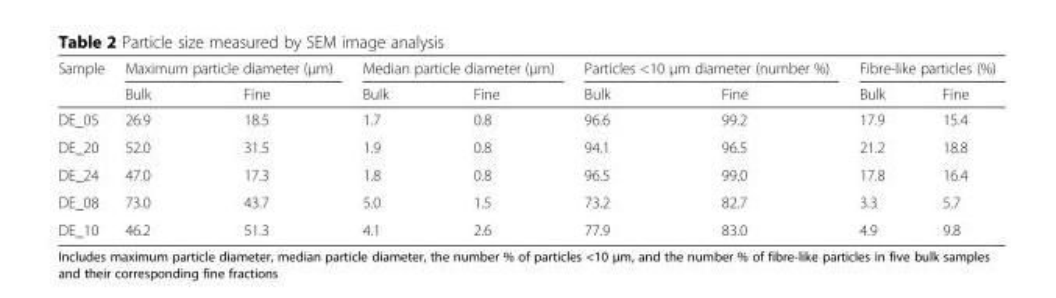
<table><thead><tr><td rowspan="2">Sample</td><td colspan="2">Maximum particle diameter (μm)</td><td colspan="2">Median particle diameter (μm)</td><td colspan="2">Particles &lt;10 μm diameter (number %)</td><td colspan="2">Fibre-like particles (%)</td></tr><tr><td>Bulk</td><td>Fine</td><td>Bulk</td><td>Fine</td><td>Bulk</td><td>Fine</td><td>Bulk</td><td>Fine</td></tr></thead><tbody><tr><td>DE_05</td><td>26.9</td><td>18.5</td><td>1.7</td><td>0.8</td><td>96.6</td><td>99.2</td><td>17.9</td><td>15.4</td></tr><tr><td>DE_20</td><td>52.0</td><td>31.5</td><td>1.9</td><td>0.8</td><td>94.1</td><td>96.5</td><td>21.2</td><td>18.8</td></tr><tr><td>DE_24</td><td>47.0</td><td>17.3</td><td>1.8</td><td>0.8</td><td>96.5</td><td>99.0</td><td>17.8</td><td>16.4</td></tr><tr><td>DE_08</td><td>73.0</td><td>43.7</td><td>5.0</td><td>1.5</td><td>73.2</td><td>82.7</td><td>3.3</td><td>5.7</td></tr><tr><td>DE_10</td><td>46.2</td><td>51.3</td><td>4.1</td><td>2.6</td><td>77.9</td><td>83.0</td><td>4.9</td><td>9.8</td></tr></tbody></table>